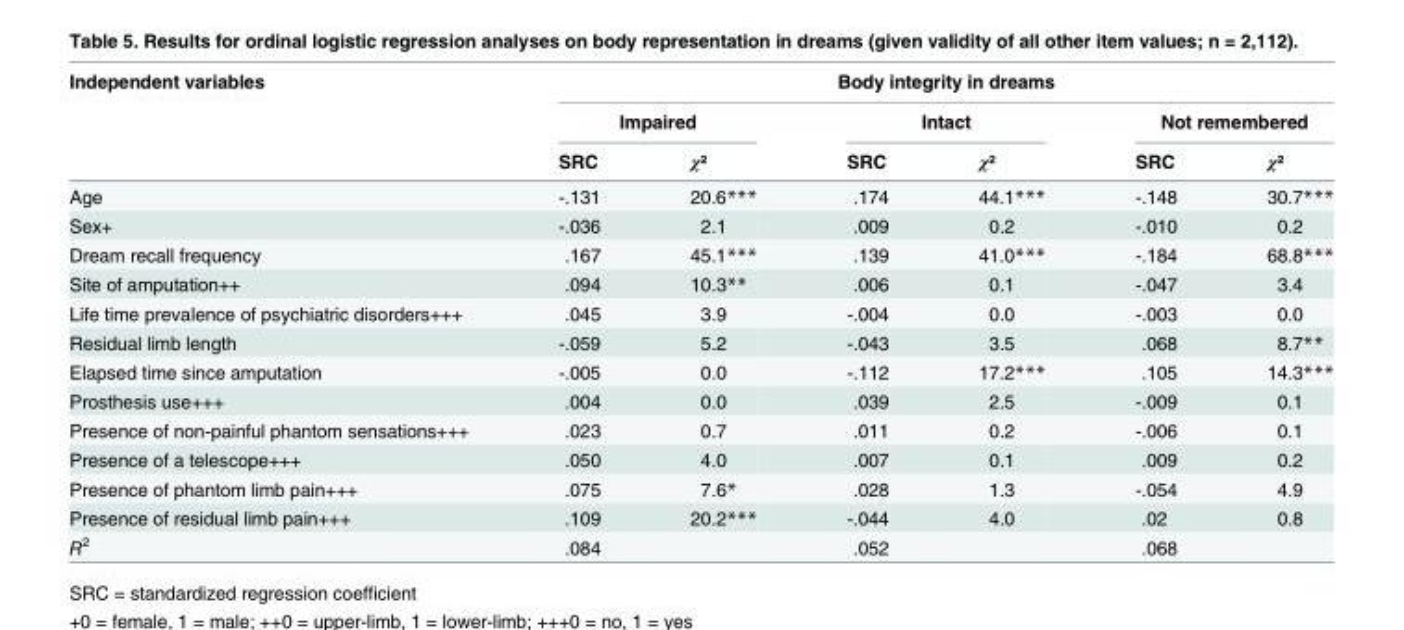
<table><thead><tr><td rowspan="3">Independent variables</td><td colspan="6">Body integrity in dreams</td></tr><tr><td colspan="2">Impaired</td><td colspan="2">Intact</td><td colspan="2">Not remembered</td></tr><tr><td>SRC</td><td>χ²</td><td>SRC</td><td>χ²</td><td>SRC</td><td>χ²</td></tr></thead><tbody><tr><td>Age</td><td>-.131</td><td>20.6***</td><td>.174</td><td>44.1***</td><td>-.148</td><td>30.7***</td></tr><tr><td>Sex+</td><td>-.036</td><td>2.1</td><td>.009</td><td>0.2</td><td>-.010</td><td>0.2</td></tr><tr><td>Dream recall frequency</td><td>.167</td><td>45.1***</td><td>.139</td><td>41.0***</td><td>-.184</td><td>68.8***</td></tr><tr><td>Site of amputation++</td><td>.094</td><td>10.3**</td><td>.006</td><td>0.1</td><td>-.047</td><td>3.4</td></tr><tr><td>Life time prevalence of psychiatric disorders+++</td><td>.045</td><td>3.9</td><td>-.004</td><td>0.0</td><td>-.003</td><td>0.0</td></tr><tr><td>Residual limb length</td><td>-.059</td><td>5.2</td><td>-.043</td><td>3.5</td><td>.068</td><td>8.7**</td></tr><tr><td>Elapsed time since amputation</td><td>-.005</td><td>0.0</td><td>-.112</td><td>17.2***</td><td>.105</td><td>14.3***</td></tr><tr><td>Prosthesis use+++</td><td>.004</td><td>0.0</td><td>.039</td><td>2.5</td><td>-.009</td><td>0.1</td></tr><tr><td>Presence of non-painful phantom sensations+++</td><td>.023</td><td>0.7</td><td>.011</td><td>0.2</td><td>-.006</td><td>0.1</td></tr><tr><td>Presence of a telescope+++</td><td>.050</td><td>4.0</td><td>.007</td><td>0.1</td><td>.009</td><td>0.2</td></tr><tr><td>Presence of phantom limb pain+++</td><td>.075</td><td>7.6*</td><td>.028</td><td>1.3</td><td>-.054</td><td>4.9</td></tr><tr><td>Presence of residual limb pain+++</td><td>.109</td><td>20.2***</td><td>-.044</td><td>4.0</td><td>.02</td><td>0.8</td></tr><tr><td>R<sup>2</sup></td><td colspan="2">.084</td><td colspan="2">.052</td><td colspan="2">.068</td></tr></tbody></table>